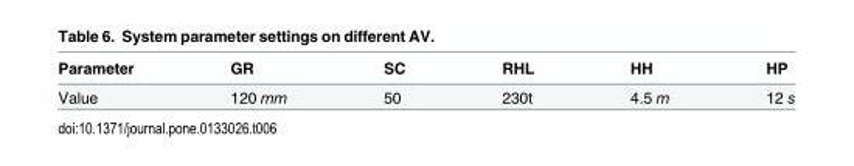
<table><thead><tr><td>Parameter</td><td>GR</td><td>SC</td><td>RHL</td><td>HH</td><td>HP</td></tr></thead><tbody><tr><td>Value</td><td>120 mm</td><td>50</td><td>230t</td><td>4.5 m</td><td>12 s</td></tr></tbody></table>